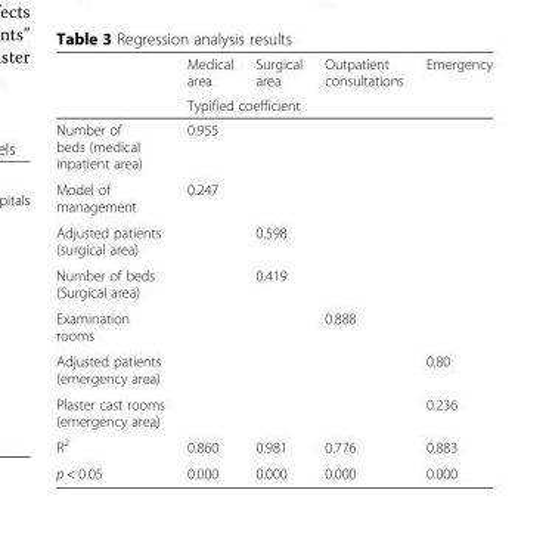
<table><thead><tr><td rowspan="2"></td><td>Medical area</td><td>Surgical area</td><td>Outpatient consultations</td><td>Emergency</td></tr><tr><td colspan="4">Typified coefficient</td></tr></thead><tbody><tr><td>Number of beds (medical inpatient area)</td><td>0.955</td><td></td><td></td><td></td></tr><tr><td>Model of management</td><td>0.247</td><td></td><td></td><td></td></tr><tr><td>Adjusted patients (surgical area)</td><td></td><td>0.598</td><td></td><td></td></tr><tr><td>Number of beds (Surgical area)</td><td></td><td>0.419</td><td></td><td></td></tr><tr><td>Examination rooms</td><td></td><td></td><td>0.888</td><td></td></tr><tr><td>Adjusted patients (emergency area)</td><td></td><td></td><td></td><td>0.80</td></tr><tr><td>Plaster cast rooms (emergency area)</td><td></td><td></td><td></td><td>0.236</td></tr><tr><td>R<sup>2</sup></td><td>0.860</td><td>0.981</td><td>0.776</td><td>0.883</td></tr><tr><td>p &lt; 0.05</td><td>0.000</td><td>0.000</td><td>0.000</td><td>0.000</td></tr></tbody></table>